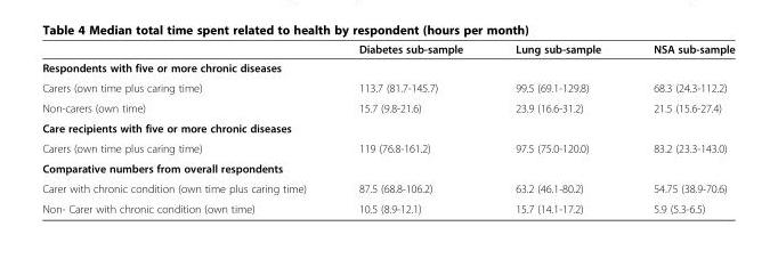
<table><thead><tr><td></td><td>Diabetes sub-sample</td><td>Lung sub-sample</td><td>NSA sub-sample</td></tr></thead><tbody><tr><td colspan="4">Respondents with five or more chronic diseases</td></tr><tr><td>Carers (own time plus caring time)</td><td>113.7 (81.7-145.7)</td><td>99.5 (69.1-129.8)</td><td>68.3 (24.3-112.2)</td></tr><tr><td>Non-carers (own time)</td><td>15.7 (9.8-21.6)</td><td>23.9 (16.6-31.2)</td><td>21.5 (15.6-27.4)</td></tr><tr><td colspan="4">Care recipients with five or more chronic diseases</td></tr><tr><td>Carers (own time plus caring time)</td><td>119 (76.8-161.2)</td><td>97.5 (75.0-120.0)</td><td>83.2 (23.3-143.0)</td></tr><tr><td colspan="4">Comparative numbers from overall respondents</td></tr><tr><td>Carer with chronic condition (own time plus caring time)</td><td>87.5 (68.8-106.2)</td><td>63.2 (46.1-80.2)</td><td>54.75 (38.9-70.6)</td></tr><tr><td>Non- Carer with chronic condition (own time)</td><td>10.5 (8.9-12.1)</td><td>15.7 (14.1-17.2)</td><td>5.9 (5.3-6.5)</td></tr></tbody></table>